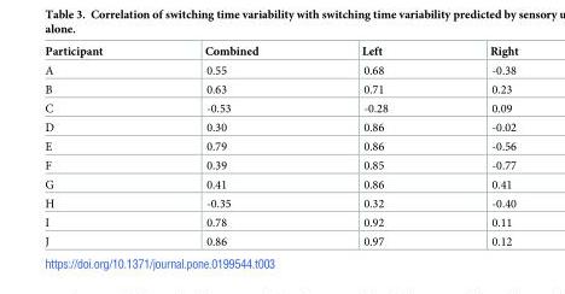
<table><thead><tr><td>Participant</td><td>Combined</td><td>Left</td><td>Right</td></tr></thead><tbody><tr><td>A</td><td>0.55</td><td>0.68</td><td>-0.38</td></tr><tr><td>B</td><td>0.63</td><td>0.71</td><td>0.23</td></tr><tr><td>C</td><td>-0.53</td><td>-0.28</td><td>0.09</td></tr><tr><td>D</td><td>0.30</td><td>0.86</td><td>-0.02</td></tr><tr><td>E</td><td>0.79</td><td>0.86</td><td>-0.56</td></tr><tr><td>F</td><td>0.39</td><td>0.85</td><td>-0.77</td></tr><tr><td>G</td><td>0.41</td><td>0.86</td><td>0.41</td></tr><tr><td>H</td><td>-0.35</td><td>0.32</td><td>-0.40</td></tr><tr><td>I</td><td>0.78</td><td>0.92</td><td>0.11</td></tr><tr><td>J</td><td>0.86</td><td>0.97</td><td>0.12</td></tr></tbody></table>